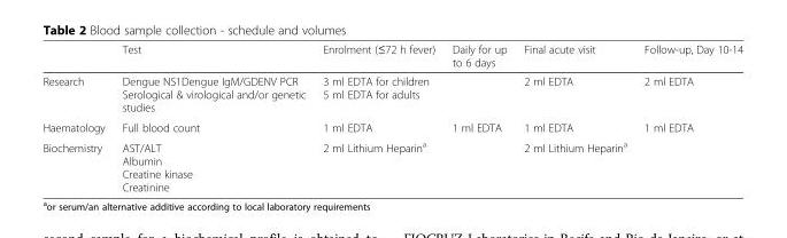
<table><thead><tr><td></td><td>Test</td><td>Enrolment (≤72 h fever)</td><td>Daily for up to 6 days</td><td>Final acute visit</td><td>Follow-up, Day 10-14</td></tr></thead><tbody><tr><td>Research</td><td>Dengue NS1Dengue IgM/GDENV PCR Serological &amp; virological and/or genetic studies</td><td>3 ml EDTA for children 5 ml EDTA for adults</td><td></td><td>2 ml EDTA</td><td>2 ml EDTA</td></tr><tr><td>Haematology</td><td>Full blood count</td><td>1 ml EDTA</td><td>1 ml EDTA</td><td>1 ml EDTA</td><td>1 ml EDTA</td></tr><tr><td>Biochemistry</td><td>AST/ALT Albumin Creatine kinase Creatinine</td><td>2 ml Lithium Heparin<sup>a</sup></td><td></td><td>2 ml Lithium Heparin<sup>a</sup></td><td></td></tr></tbody></table>